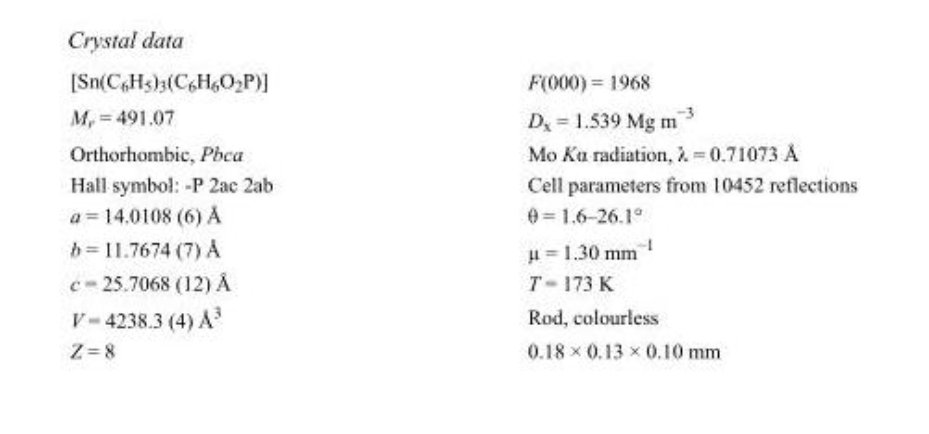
<table><tbody><tr><td>[Sn(C<sub>6</sub>H<sub>5</sub>)<sub>3</sub>(C<sub>6</sub>H<sub>6</sub>O<sub>2</sub>P)]</td><td>F(000) = 1968</td></tr><tr><td>M<sub>r</sub> = 491.07</td><td>D<sub>x</sub> = 1.539 Mg m<sup>−3</sup></td></tr><tr><td>Orthorhombic, Pbca</td><td>Mo Kα radiation, λ = 0.71073 Å</td></tr><tr><td>Hall symbol: -P 2ac 2ab</td><td>Cell parameters from 10452 reflections</td></tr><tr><td>a = 14.0108 (6) Å</td><td>θ = 1.6–26.1°</td></tr><tr><td>b = 11.7674 (7) Å</td><td>µ = 1.30 mm<sup>−1</sup></td></tr><tr><td>c = 25.7068 (12) Å</td><td>T = 173 K</td></tr><tr><td>V = 4238.3 (4) Å<sup>3</sup></td><td>Rod, colourless</td></tr><tr><td>Z = 8</td><td>0.18 × 0.13 × 0.10 mm</td></tr></tbody></table>